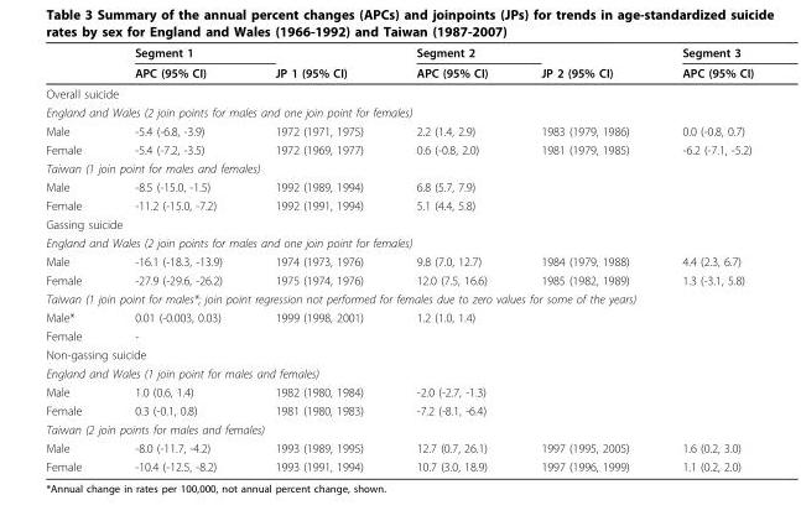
<table><thead><tr><td rowspan="2"></td><td rowspan="2">Segment 1 APC (95% CI)</td><td rowspan="2">JP 1 (95% CI)</td><td rowspan="2">Segment 2 APC (95% CI)</td><td rowspan="2">JP 2 (95% CI)</td><td rowspan="2">Segment 3 APC (95% CI)</td></tr><tr></tr></thead><tbody><tr><td colspan="6">Overall suicide</td></tr><tr><td colspan="6">England and Wales (2 join points for males and one join point for females)</td></tr><tr><td>Male</td><td>-5.4 (-6.8, -3.9)</td><td>1972 (1971, 1975)</td><td>2.2 (1.4, 2.9)</td><td>1983 (1979, 1986)</td><td>0.0 (-0.8, 0.7)</td></tr><tr><td>Female</td><td>-5.4 (-7.2, -3.5)</td><td>1972 (1969, 1977)</td><td>0.6 (-0.8, 2.0)</td><td>1981 (1979, 1985)</td><td>-6.2 (-7.1, -5.2)</td></tr><tr><td colspan="6">Taiwan (1 join point for males and females)</td></tr><tr><td>Male</td><td>-8.5 (-15.0, -1.5)</td><td>1992 (1989, 1994)</td><td>6.8 (5.7, 7.9)</td><td></td><td></td></tr><tr><td>Female</td><td>-11.2 (-15.0, -7.2)</td><td>1992 (1991, 1994)</td><td>5.1 (4.4, 5.8)</td><td></td><td></td></tr><tr><td colspan="6">Gassing suicide</td></tr><tr><td colspan="6">England and Wales (2 join points for males and one join point for females)</td></tr><tr><td>Male</td><td>-16.1 (-18.3, -13.9)</td><td>1974 (1973, 1976)</td><td>9.8 (7.0, 12.7)</td><td>1984 (1979, 1988)</td><td>4.4 (2.3, 6.7)</td></tr><tr><td>Female</td><td>-27.9 (-29.6, -26.2)</td><td>1975 (1974, 1976)</td><td>12.0 (7.5, 16.6)</td><td>1985 (1982, 1989)</td><td>1.3 (-3.1, 5.8)</td></tr><tr><td colspan="6">Taiwan (1 join point for males*; join point regression not performed for females due to zero values for some of the years)</td></tr><tr><td>Male*</td><td>0.01 (-0.003, 0.03)</td><td>1999 (1998, 2001)</td><td>1.2 (1.0, 1.4)</td><td></td><td></td></tr><tr><td>Female</td><td>-</td><td></td><td></td><td></td><td></td></tr><tr><td colspan="6">Non-gassing suicide</td></tr><tr><td colspan="6">England and Wales (1 join point for males and females)</td></tr><tr><td>Male</td><td>1.0 (0.6, 1.4)</td><td>1982 (1980, 1984)</td><td>-2.0 (-2.7, -1.3)</td><td></td><td></td></tr><tr><td>Female</td><td>0.3 (-0.1, 0.8)</td><td>1981 (1980, 1983)</td><td>-7.2 (-8.1, -6.4)</td><td></td><td></td></tr><tr><td colspan="6">Taiwan (2 join points for males and females)</td></tr><tr><td>Male</td><td>-8.0 (-11.7, -4.2)</td><td>1993 (1989, 1995)</td><td>12.7 (0.7, 26.1)</td><td>1997 (1995, 2005)</td><td>1.6 (0.2, 3.0)</td></tr><tr><td>Female</td><td>-10.4 (-12.5, -8.2)</td><td>1993 (1991, 1994)</td><td>10.7 (3.0, 18.9)</td><td>1997 (1996, 1999)</td><td>1.1 (0.2, 2.0)</td></tr></tbody></table>